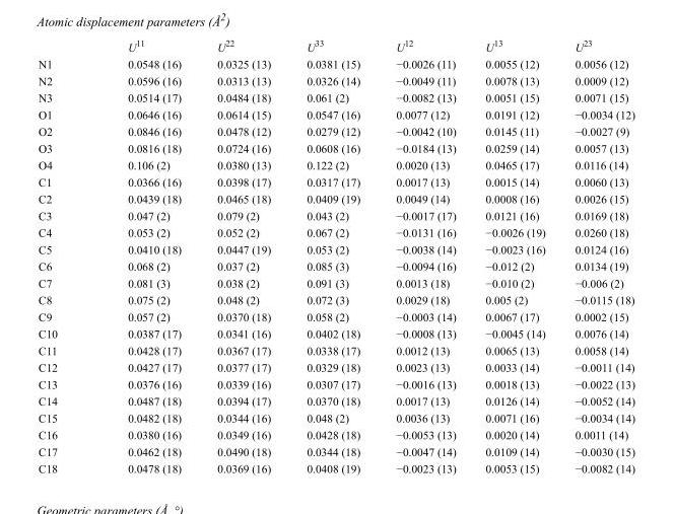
<table><thead><tr><td></td><td>U<sup>11</sup></td><td>U<sup>22</sup></td><td>U<sup>33</sup></td><td>U<sup>12</sup></td><td>U<sup>13</sup></td><td>U<sup>23</sup></td></tr></thead><tbody><tr><td>N1</td><td>0.0548 (16)</td><td>0.0325 (13)</td><td>0.0381 (15)</td><td>−0.0026 (11)</td><td>0.0055 (12)</td><td>0.0056 (12)</td></tr><tr><td>N2</td><td>0.0596 (16)</td><td>0.0313 (13)</td><td>0.0326 (14)</td><td>−0.0049 (11)</td><td>0.0078 (13)</td><td>0.0009 (12)</td></tr><tr><td>N3</td><td>0.0514 (17)</td><td>0.0484 (18)</td><td>0.061 (2)</td><td>−0.0082 (13)</td><td>0.0051 (15)</td><td>0.0071 (15)</td></tr><tr><td>O1</td><td>0.0646 (16)</td><td>0.0614 (15)</td><td>0.0547 (16)</td><td>0.0077 (12)</td><td>0.0191 (12)</td><td>−0.0034 (12)</td></tr><tr><td>O2</td><td>0.0846 (16)</td><td>0.0478 (12)</td><td>0.0279 (12)</td><td>−0.0042 (10)</td><td>0.0145 (11)</td><td>−0.0027 (9)</td></tr><tr><td>O3</td><td>0.0816 (18)</td><td>0.0724 (16)</td><td>0.0608 (16)</td><td>−0.0184 (13)</td><td>0.0259 (14)</td><td>0.0057 (13)</td></tr><tr><td>O4</td><td>0.106 (2)</td><td>0.0380 (13)</td><td>0.122 (2)</td><td>0.0020 (13)</td><td>0.0465 (17)</td><td>0.0116 (14)</td></tr><tr><td>C1</td><td>0.0366 (16)</td><td>0.0398 (17)</td><td>0.0317 (17)</td><td>0.0017 (13)</td><td>0.0015 (14)</td><td>0.0060 (13)</td></tr><tr><td>C2</td><td>0.0439 (18)</td><td>0.0465 (18)</td><td>0.0409 (19)</td><td>0.0049 (14)</td><td>0.0008 (16)</td><td>0.0026 (15)</td></tr><tr><td>C3</td><td>0.047 (2)</td><td>0.079 (2)</td><td>0.043 (2)</td><td>−0.0017 (17)</td><td>0.0121 (16)</td><td>0.0169 (18)</td></tr><tr><td>C4</td><td>0.053 (2)</td><td>0.052 (2)</td><td>0.067 (2)</td><td>−0.0131 (16)</td><td>−0.0026 (19)</td><td>0.0260 (18)</td></tr><tr><td>C5</td><td>0.0410 (18)</td><td>0.0447 (19)</td><td>0.053 (2)</td><td>−0.0038 (14)</td><td>−0.0023 (16)</td><td>0.0124 (16)</td></tr><tr><td>C6</td><td>0.068 (2)</td><td>0.037 (2)</td><td>0.085 (3)</td><td>−0.0094 (16)</td><td>−0.012 (2)</td><td>0.0134 (19)</td></tr><tr><td>C7</td><td>0.081 (3)</td><td>0.038 (2)</td><td>0.091 (3)</td><td>0.0013 (18)</td><td>−0.010 (2)</td><td>−0.006 (2)</td></tr><tr><td>C8</td><td>0.075 (2)</td><td>0.048 (2)</td><td>0.072 (3)</td><td>0.0029 (18)</td><td>0.005 (2)</td><td>−0.0115 (18)</td></tr><tr><td>C9</td><td>0.057 (2)</td><td>0.0370 (18)</td><td>0.058 (2)</td><td>−0.0003 (14)</td><td>0.0067 (17)</td><td>0.0002 (15)</td></tr><tr><td>C10</td><td>0.0387 (17)</td><td>0.0341 (16)</td><td>0.0402 (18)</td><td>−0.0008 (13)</td><td>−0.0045 (14)</td><td>0.0076 (14)</td></tr><tr><td>C11</td><td>0.0428 (17)</td><td>0.0367 (17)</td><td>0.0338 (17)</td><td>0.0012 (13)</td><td>0.0065 (13)</td><td>0.0058 (14)</td></tr><tr><td>C12</td><td>0.0427 (17)</td><td>0.0377 (17)</td><td>0.0329 (18)</td><td>0.0023 (13)</td><td>0.0033 (14)</td><td>−0.0011 (14)</td></tr><tr><td>C13</td><td>0.0376 (16)</td><td>0.0339 (16)</td><td>0.0307 (17)</td><td>−0.0016 (13)</td><td>0.0018 (13)</td><td>−0.0022 (13)</td></tr><tr><td>C14</td><td>0.0487 (18)</td><td>0.0394 (17)</td><td>0.0370 (18)</td><td>0.0017 (13)</td><td>0.0126 (14)</td><td>−0.0052 (14)</td></tr><tr><td>C15</td><td>0.0482 (18)</td><td>0.0344 (16)</td><td>0.048 (2)</td><td>0.0036 (13)</td><td>0.0071 (16)</td><td>−0.0034 (14)</td></tr><tr><td>C16</td><td>0.0380 (16)</td><td>0.0349 (16)</td><td>0.0428 (18)</td><td>−0.0053 (13)</td><td>0.0020 (14)</td><td>0.0011 (14)</td></tr><tr><td>C17</td><td>0.0462 (18)</td><td>0.0490 (18)</td><td>0.0344 (18)</td><td>−0.0047 (14)</td><td>0.0109 (14)</td><td>−0.0030 (15)</td></tr><tr><td>C18</td><td>0.0478 (18)</td><td>0.0369 (16)</td><td>0.0408 (19)</td><td>−0.0023 (13)</td><td>0.0053 (15)</td><td>−0.0082 (14)</td></tr></tbody></table>